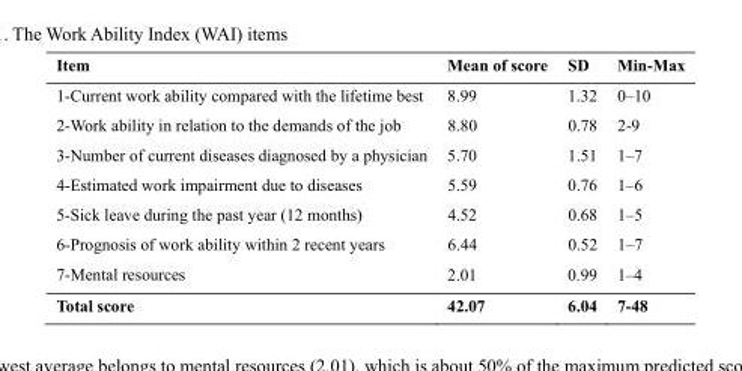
<table><thead><tr><td>Item</td><td>Mean of score</td><td>SD</td><td>Min-Max</td></tr></thead><tbody><tr><td>1-Current work ability compared with the lifetime best</td><td>8.99</td><td>1.32</td><td>0–10</td></tr><tr><td>2-Work ability in relation to the demands of the job</td><td>8.80</td><td>0.78</td><td>2-9</td></tr><tr><td>3-Number of current diseases diagnosed by a physician</td><td>5.70</td><td>1.51</td><td>1–7</td></tr><tr><td>4-Estimated work impairment due to diseases</td><td>5.59</td><td>0.76</td><td>1–6</td></tr><tr><td>5-Sick leave during the past year (12 months)</td><td>4.52</td><td>0.68</td><td>1–5</td></tr><tr><td>6-Prognosis of work ability within 2 recent years</td><td>6.44</td><td>0.52</td><td>1–7</td></tr><tr><td>7-Mental resources</td><td>2.01</td><td>0.99</td><td>1–4</td></tr><tr><td>Total score</td><td>42.07</td><td>6.04</td><td>7-48</td></tr></tbody></table>